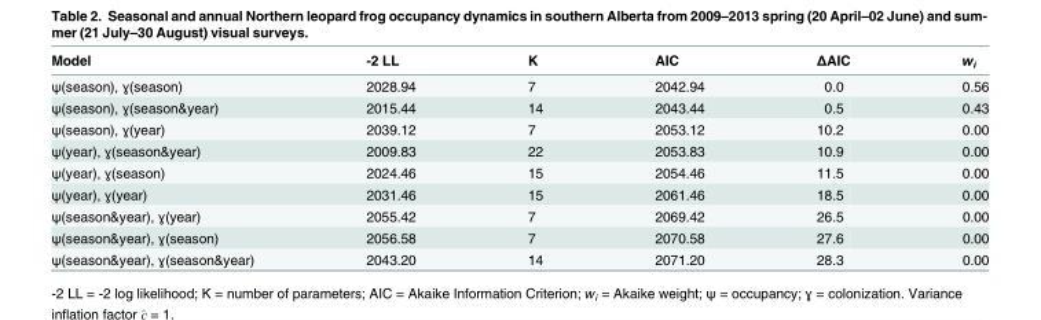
<table><thead><tr><td>Model</td><td>-2 LL</td><td>K</td><td>AIC</td><td>ΔAIC</td><td>w<sub>i</sub></td></tr></thead><tbody><tr><td>ψ(season), ɣ(season)</td><td>2028.94</td><td>7</td><td>2042.94</td><td>0.0</td><td>0.56</td></tr><tr><td>ψ(season), ɣ(season&amp;year)</td><td>2015.44</td><td>14</td><td>2043.44</td><td>0.5</td><td>0.43</td></tr><tr><td>ψ(season), ɣ(year)</td><td>2039.12</td><td>7</td><td>2053.12</td><td>10.2</td><td>0.00</td></tr><tr><td>ψ(year), ɣ(season&amp;year)</td><td>2009.83</td><td>22</td><td>2053.83</td><td>10.9</td><td>0.00</td></tr><tr><td>ψ(year), ɣ(season)</td><td>2024.46</td><td>15</td><td>2054.46</td><td>11.5</td><td>0.00</td></tr><tr><td>ψ(year), ɣ(year)</td><td>2031.46</td><td>15</td><td>2061.46</td><td>18.5</td><td>0.00</td></tr><tr><td>ψ(season&amp;year), ɣ(year)</td><td>2055.42</td><td>7</td><td>2069.42</td><td>26.5</td><td>0.00</td></tr><tr><td>ψ(season&amp;year), ɣ(season)</td><td>2056.58</td><td>7</td><td>2070.58</td><td>27.6</td><td>0.00</td></tr><tr><td>ψ(season&amp;year), ɣ(season&amp;year)</td><td>2043.20</td><td>14</td><td>2071.20</td><td>28.3</td><td>0.00</td></tr></tbody></table>